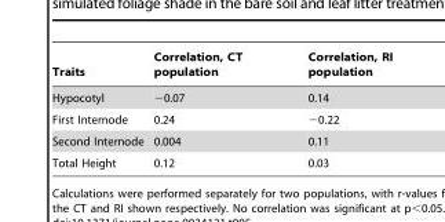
<table><thead><tr><td>Traits</td><td>Correlation, CT population</td><td>Correlation, RI population</td></tr></thead><tbody><tr><td>Hypocotyl</td><td>−0.07</td><td>0.14</td></tr><tr><td>First Internode</td><td>0.24</td><td>−0.22</td></tr><tr><td>Second Internode</td><td>0.004</td><td>0.11</td></tr><tr><td>Total Height</td><td>0.12</td><td>0.03</td></tr></tbody></table>